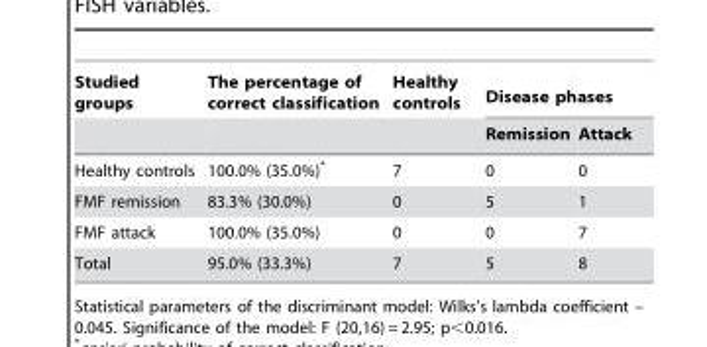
<table><thead><tr><td rowspan="2">Studied groups</td><td rowspan="2">The percentage of correct classification</td><td rowspan="2">Healthy controls</td><td colspan="2">Disease phases</td></tr><tr><td>Remission</td><td>Attack</td></tr></thead><tbody><tr><td>Healthy controls</td><td>100.0% (35.0%)*</td><td>7</td><td>0</td><td>0</td></tr><tr><td>FMF remission</td><td>83.3% (30.0%)</td><td>0</td><td>5</td><td>1</td></tr><tr><td>FMF attack</td><td>100.0% (35.0%)</td><td>0</td><td>0</td><td>7</td></tr><tr><td>Total</td><td>95.0% (33.3%)</td><td>7</td><td>5</td><td>8</td></tr></tbody></table>